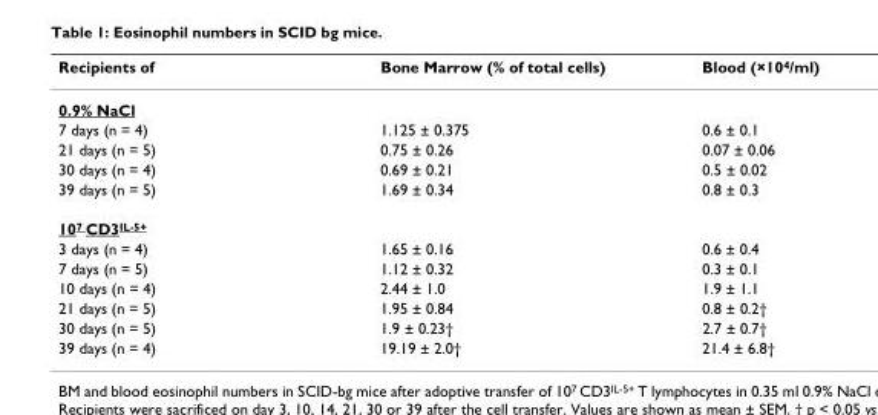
<table><thead><tr><td>Recipients of</td><td>Bone Marrow (% of total cells)</td><td>Blood (×10<sup>4</sup>/ml)</td></tr></thead><tbody><tr><td colspan="3">0.9% NaCl</td></tr><tr><td>7 days (n = 4)</td><td>1.125 ± 0.375</td><td>0.6 ± 0.1</td></tr><tr><td>21 days (n = 5)</td><td>0.75 ± 0.26</td><td>0.07 ± 0.06</td></tr><tr><td>30 days (n = 4)</td><td>0.69 ± 0.21</td><td>0.5 ± 0.02</td></tr><tr><td>39 days (n = 5)</td><td>1.69 ± 0.34</td><td>0.8 ± 0.3</td></tr><tr><td colspan="3">10<sup>7</sup> CD3<sup>IL-5+</sup></td></tr><tr><td>3 days (n = 4)</td><td>1.65 ± 0.16</td><td>0.6 ± 0.4</td></tr><tr><td>7 days (n = 5)</td><td>1.12 ± 0.32</td><td>0.3 ± 0.1</td></tr><tr><td>10 days (n = 4)</td><td>2.44 ± 1.0</td><td>1.9 ± 1.1</td></tr><tr><td>21 days (n = 5)</td><td>1.95 ± 0.84</td><td>0.8 ± 0.2†</td></tr><tr><td>30 days (n = 5)</td><td>1.9 ± 0.23†</td><td>2.7 ± 0.7†</td></tr><tr><td>39 days (n = 4)</td><td>19.19 ± 2.0†</td><td>21.4 ± 6.8†</td></tr></tbody></table>